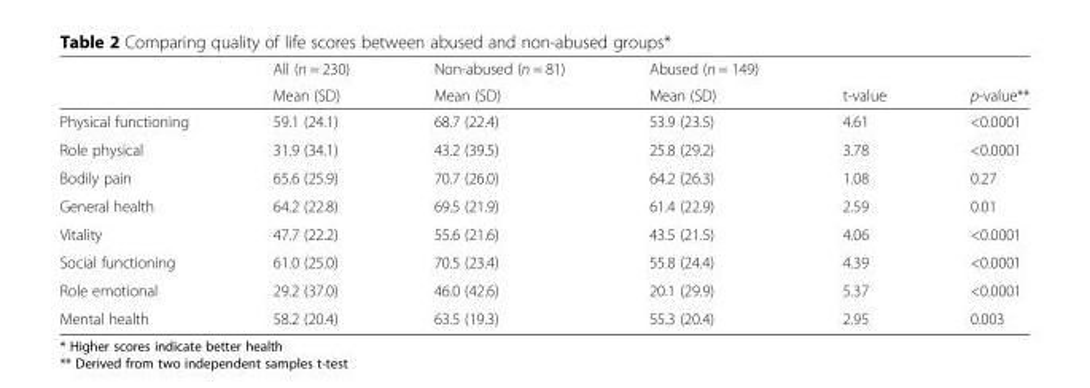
<table><thead><tr><td rowspan="2"></td><td rowspan="2">All (n = 230) Mean (SD)</td><td rowspan="2">Non-abused (n = 81) Mean (SD)</td><td rowspan="2">Abused (n = 149) Mean (SD)</td><td rowspan="2">t-value</td><td rowspan="2">p-value**</td></tr><tr></tr></thead><tbody><tr><td>Physical functioning</td><td>59.1 (24.1)</td><td>68.7 (22.4)</td><td>53.9 (23.5)</td><td>4.61</td><td>&lt;0.0001</td></tr><tr><td>Role physical</td><td>31.9 (34.1)</td><td>43.2 (39.5)</td><td>25.8 (29.2)</td><td>3.78</td><td>&lt;0.0001</td></tr><tr><td>Bodily pain</td><td>65.6 (25.9)</td><td>70.7 (26.0)</td><td>64.2 (26.3)</td><td>1.08</td><td>0.27</td></tr><tr><td>General health</td><td>64.2 (22.8)</td><td>69.5 (21.9)</td><td>61.4 (22.9)</td><td>2.59</td><td>0.01</td></tr><tr><td>Vitality</td><td>47.7 (22.2)</td><td>55.6 (21.6)</td><td>43.5 (21.5)</td><td>4.06</td><td>&lt;0.0001</td></tr><tr><td>Social functioning</td><td>61.0 (25.0)</td><td>70.5 (23.4)</td><td>55.8 (24.4)</td><td>4.39</td><td>&lt;0.0001</td></tr><tr><td>Role emotional</td><td>29.2 (37.0)</td><td>46.0 (42.6)</td><td>20.1 (29.9)</td><td>5.37</td><td>&lt;0.0001</td></tr><tr><td>Mental health</td><td>58.2 (20.4)</td><td>63.5 (19.3)</td><td>55.3 (20.4)</td><td>2.95</td><td>0.003</td></tr></tbody></table>